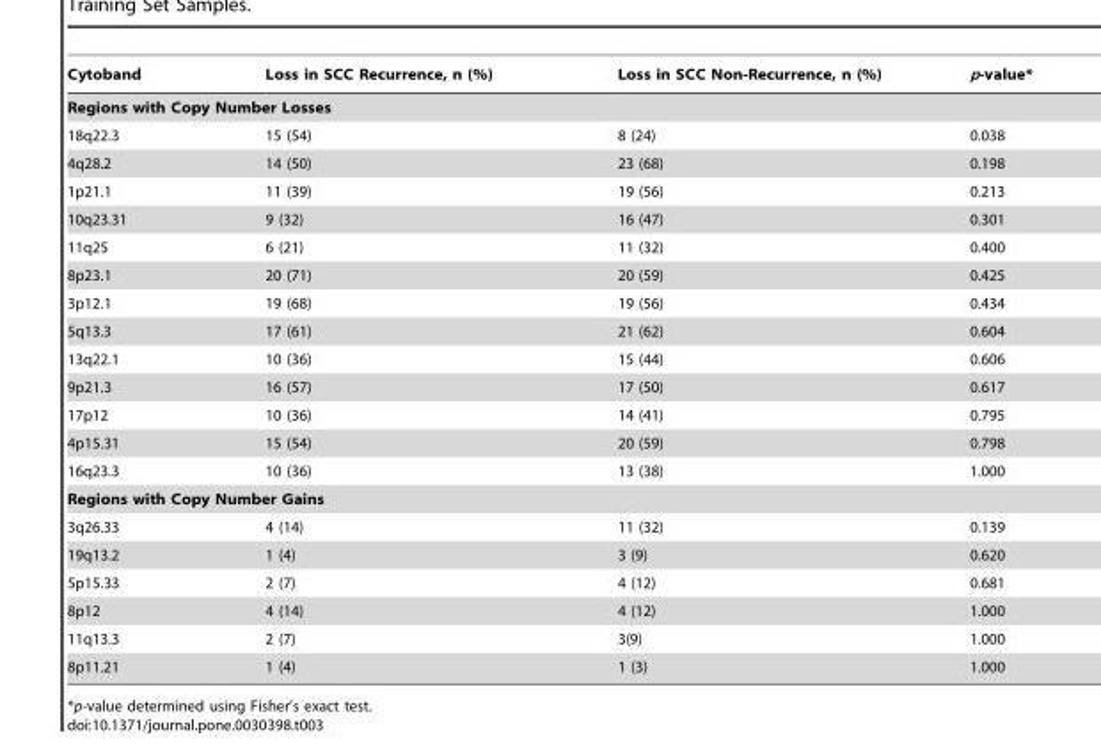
<table><thead><tr><td>Cytoband</td><td>Loss in SCC Recurrence, n (%)</td><td>Loss in SCC Non-Recurrence, n (%)</td><td>p-value*</td></tr></thead><tbody><tr><td colspan="4">Regions with Copy Number Losses</td></tr><tr><td>18q22.3</td><td>15 (54)</td><td>8 (24)</td><td>0.038</td></tr><tr><td>4q28.2</td><td>14 (50)</td><td>23 (68)</td><td>0.198</td></tr><tr><td>1p21.1</td><td>11 (39)</td><td>19 (56)</td><td>0.213</td></tr><tr><td>10q23.31</td><td>9 (32)</td><td>16 (47)</td><td>0.301</td></tr><tr><td>11q25</td><td>6 (21)</td><td>11 (32)</td><td>0.400</td></tr><tr><td>8p23.1</td><td>20 (71)</td><td>20 (59)</td><td>0.425</td></tr><tr><td>3p12.1</td><td>19 (68)</td><td>19 (56)</td><td>0.434</td></tr><tr><td>5q13.3</td><td>17 (61)</td><td>21 (62)</td><td>0.604</td></tr><tr><td>13q22.1</td><td>10 (36)</td><td>15 (44)</td><td>0.606</td></tr><tr><td>9p21.3</td><td>16 (57)</td><td>17 (50)</td><td>0.617</td></tr><tr><td>17p12</td><td>10 (36)</td><td>14 (41)</td><td>0.795</td></tr><tr><td>4p15.31</td><td>15 (54)</td><td>20 (59)</td><td>0.798</td></tr><tr><td>16q23.3</td><td>10 (36)</td><td>13 (38)</td><td>1.000</td></tr><tr><td colspan="4">Regions with Copy Number Gains</td></tr><tr><td>3q26.33</td><td>4 (14)</td><td>11 (32)</td><td>0.139</td></tr><tr><td>19q13.2</td><td>1 (4)</td><td>3 (9)</td><td>0.620</td></tr><tr><td>5p15.33</td><td>2 (7)</td><td>4 (12)</td><td>0.681</td></tr><tr><td>8p12</td><td>4 (14)</td><td>4 (12)</td><td>1.000</td></tr><tr><td>11q13.3</td><td>2 (7)</td><td>3(9)</td><td>1.000</td></tr><tr><td>8p11.21</td><td>1 (4)</td><td>1 (3)</td><td>1.000</td></tr></tbody></table>